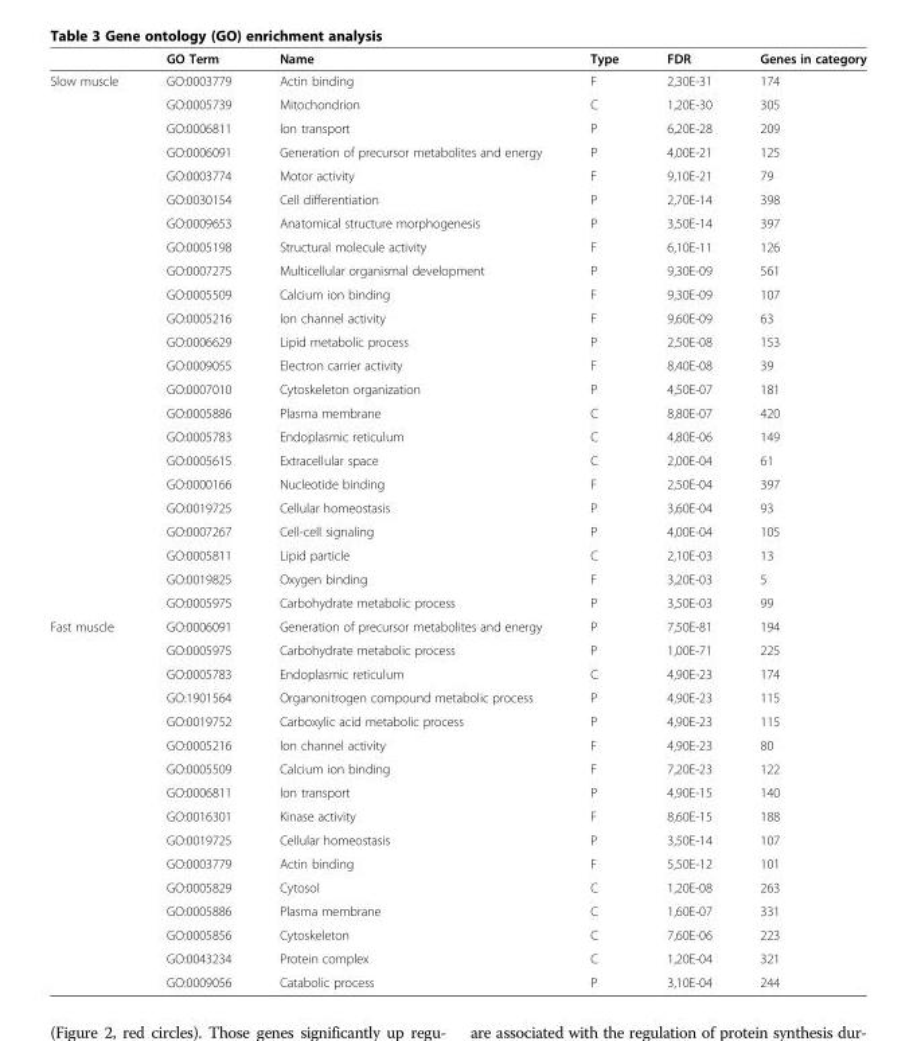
<table><thead><tr><td></td><td>GO Term</td><td>Name</td><td>Type</td><td>FDR</td><td>Genes in category</td></tr></thead><tbody><tr><td rowspan="23">Slow muscle</td><td>GO:0003779</td><td>Actin binding</td><td>F</td><td>2,30E-31</td><td>174</td></tr><tr><td>GO:0005739</td><td>Mitochondrion</td><td>C</td><td>1,20E-30</td><td>305</td></tr><tr><td>GO:0006811</td><td>Ion transport</td><td>P</td><td>6,20E-28</td><td>209</td></tr><tr><td>GO:0006091</td><td>Generation of precursor metabolites and energy</td><td>P</td><td>4,00E-21</td><td>125</td></tr><tr><td>GO:0003774</td><td>Motor activity</td><td>F</td><td>9,10E-21</td><td>79</td></tr><tr><td>GO:0030154</td><td>Cell differentiation</td><td>P</td><td>2,70E-14</td><td>398</td></tr><tr><td>GO:0009653</td><td>Anatomical structure morphogenesis</td><td>P</td><td>3,50E-14</td><td>397</td></tr><tr><td>GO:0005198</td><td>Structural molecule activity</td><td>F</td><td>6,10E-11</td><td>126</td></tr><tr><td>GO:0007275</td><td>Multicellular organismal development</td><td>P</td><td>9,30E-09</td><td>561</td></tr><tr><td>GO:0005509</td><td>Calcium ion binding</td><td>F</td><td>9,30E-09</td><td>107</td></tr><tr><td>GO:0005216</td><td>Ion channel activity</td><td>F</td><td>9,60E-09</td><td>63</td></tr><tr><td>GO:0006629</td><td>Lipid metabolic process</td><td>P</td><td>2,50E-08</td><td>153</td></tr><tr><td>GO:0009055</td><td>Electron carrier activity</td><td>F</td><td>8,40E-08</td><td>39</td></tr><tr><td>GO:0007010</td><td>Cytoskeleton organization</td><td>P</td><td>4,50E-07</td><td>181</td></tr><tr><td>GO:0005886</td><td>Plasma membrane</td><td>C</td><td>8,80E-07</td><td>420</td></tr><tr><td>GO:0005783</td><td>Endoplasmic reticulum</td><td>C</td><td>4,80E-06</td><td>149</td></tr><tr><td>GO:0005615</td><td>Extracellular space</td><td>C</td><td>2,00E-04</td><td>61</td></tr><tr><td>GO:0000166</td><td>Nucleotide binding</td><td>F</td><td>2,50E-04</td><td>397</td></tr><tr><td>GO:0019725</td><td>Cellular homeostasis</td><td>P</td><td>3,60E-04</td><td>93</td></tr><tr><td>GO:0007267</td><td>Cell-cell signaling</td><td>P</td><td>4,00E-04</td><td>105</td></tr><tr><td>GO:0005811</td><td>Lipid particle</td><td>C</td><td>2,10E-03</td><td>13</td></tr><tr><td>GO:0019825</td><td>Oxygen binding</td><td>F</td><td>3,20E-03</td><td>5</td></tr><tr><td>GO:0005975</td><td>Carbohydrate metabolic process</td><td>P</td><td>3,50E-03</td><td>99</td></tr><tr><td rowspan="16">Fast muscle</td><td>GO:0006091</td><td>Generation of precursor metabolites and energy</td><td>P</td><td>7,50E-81</td><td>194</td></tr><tr><td>GO:0005975</td><td>Carbohydrate metabolic process</td><td>P</td><td>1,00E-71</td><td>225</td></tr><tr><td>GO:0005783</td><td>Endoplasmic reticulum</td><td>C</td><td>4,90E-23</td><td>174</td></tr><tr><td>GO:1901564</td><td>Organonitrogen compound metabolic process</td><td>P</td><td>4,90E-23</td><td>115</td></tr><tr><td>GO:0019752</td><td>Carboxylic acid metabolic process</td><td>P</td><td>4,90E-23</td><td>115</td></tr><tr><td>GO:0005216</td><td>Ion channel activity</td><td>F</td><td>4,90E-23</td><td>80</td></tr><tr><td>GO:0005509</td><td>Calcium ion binding</td><td>F</td><td>7,20E-23</td><td>122</td></tr><tr><td>GO:0006811</td><td>Ion transport</td><td>P</td><td>4,90E-15</td><td>140</td></tr><tr><td>GO:0016301</td><td>Kinase activity</td><td>F</td><td>8,60E-15</td><td>188</td></tr><tr><td>GO:0019725</td><td>Cellular homeostasis</td><td>P</td><td>3,50E-14</td><td>107</td></tr><tr><td>GO:0003779</td><td>Actin binding</td><td>F</td><td>5,50E-12</td><td>101</td></tr><tr><td>GO:0005829</td><td>Cytosol</td><td>C</td><td>1,20E-08</td><td>263</td></tr><tr><td>GO:0005886</td><td>Plasma membrane</td><td>C</td><td>1,60E-07</td><td>331</td></tr><tr><td>GO:0005856</td><td>Cytoskeleton</td><td>C</td><td>7,60E-06</td><td>223</td></tr><tr><td>GO:0043234</td><td>Protein complex</td><td>C</td><td>1,20E-04</td><td>321</td></tr><tr><td>GO:0009056</td><td>Catabolic process</td><td>P</td><td>3,10E-04</td><td>244</td></tr></tbody></table>